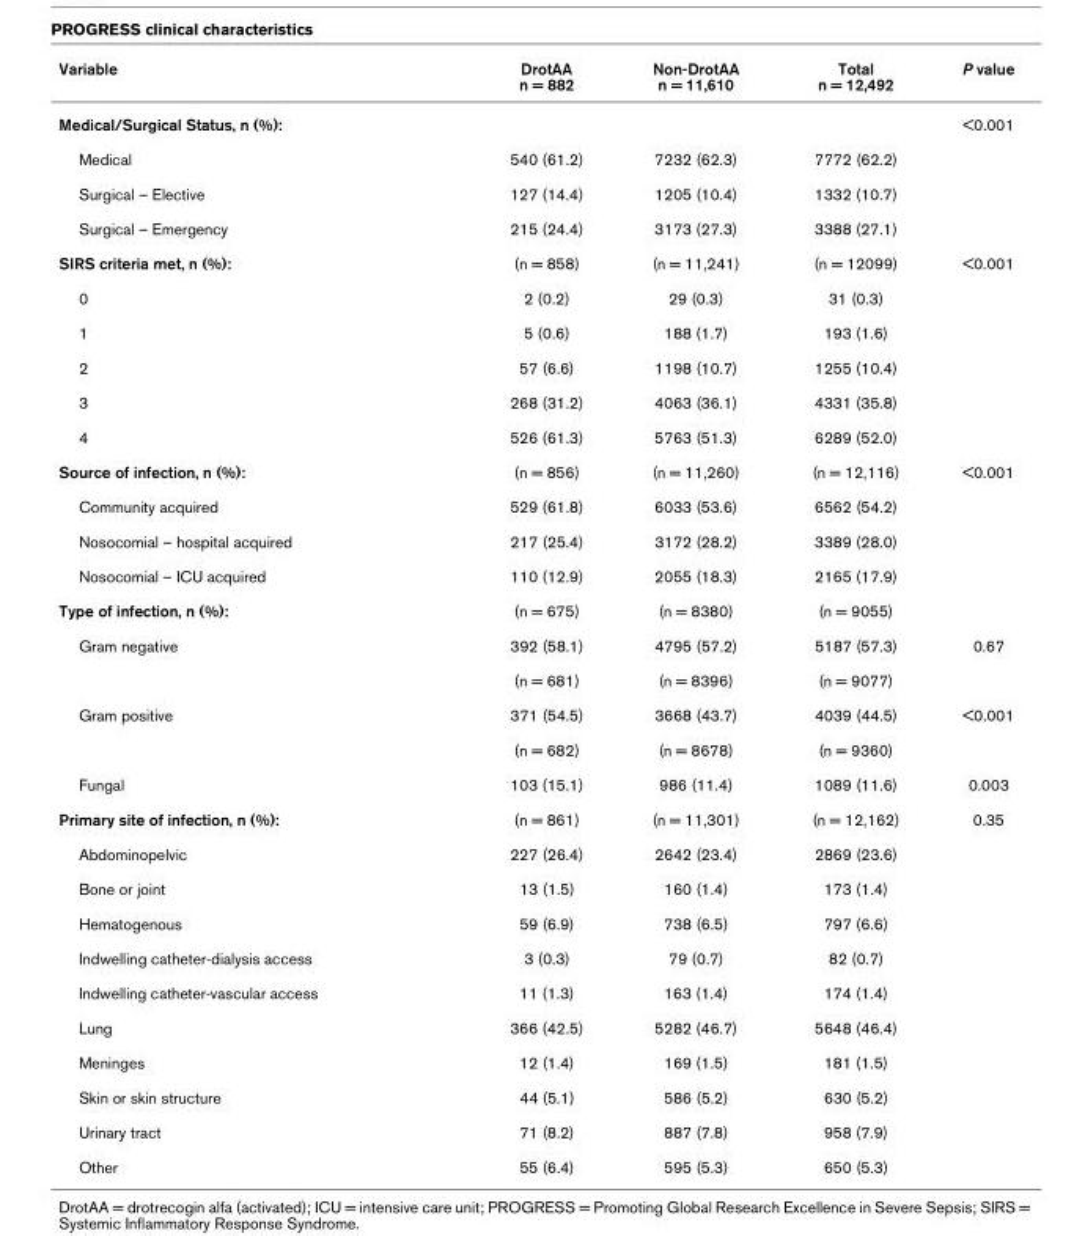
<table><thead><tr><td>Variable</td><td>DrotAA n = 882</td><td>Non-DrotAA n = 11,610</td><td>Total n = 12,492</td><td>P value</td></tr></thead><tbody><tr><td>Medical/Surgical Status, n (%):</td><td></td><td></td><td></td><td>&lt;0.001</td></tr><tr><td>Medical</td><td>540 (61.2)</td><td>7232 (62.3)</td><td>7772 (62.2)</td><td></td></tr><tr><td>Surgical – Elective</td><td>127 (14.4)</td><td>1205 (10.4)</td><td>1332 (10.7)</td><td></td></tr><tr><td>Surgical – Emergency</td><td>215 (24.4)</td><td>3173 (27.3)</td><td>3388 (27.1)</td><td></td></tr><tr><td>SIRS criteria met, n (%):</td><td>(n = 858)</td><td>(n = 11,241)</td><td>(n = 12099)</td><td>&lt;0.001</td></tr><tr><td>0</td><td>2 (0.2)</td><td>29 (0.3)</td><td>31 (0.3)</td><td></td></tr><tr><td>1</td><td>5 (0.6)</td><td>188 (1.7)</td><td>193 (1.6)</td><td></td></tr><tr><td>2</td><td>57 (6.6)</td><td>1198 (10.7)</td><td>1255 (10.4)</td><td></td></tr><tr><td>3</td><td>268 (31.2)</td><td>4063 (36.1)</td><td>4331 (35.8)</td><td></td></tr><tr><td>4</td><td>526 (61.3)</td><td>5763 (51.3)</td><td>6289 (52.0)</td><td></td></tr><tr><td>Source of infection, n (%):</td><td>(n = 856)</td><td>(n = 11,260)</td><td>(n = 12,116)</td><td>&lt;0.001</td></tr><tr><td>Community acquired</td><td>529 (61.8)</td><td>6033 (53.6)</td><td>6562 (54.2)</td><td></td></tr><tr><td>Nosocomial – hospital acquired</td><td>217 (25.4)</td><td>3172 (28.2)</td><td>3389 (28.0)</td><td></td></tr><tr><td>Nosocomial – ICU acquired</td><td>110 (12.9)</td><td>2055 (18.3)</td><td>2165 (17.9)</td><td></td></tr><tr><td>Type of infection, n (%):</td><td>(n = 675)</td><td>(n = 8380)</td><td>(n = 9055)</td><td></td></tr><tr><td rowspan="2">Gram negative</td><td>392 (58.1)</td><td>4795 (57.2)</td><td>5187 (57.3)</td><td>0.67</td></tr><tr><td>(n = 681)</td><td>(n = 8396)</td><td>(n = 9077)</td><td></td></tr><tr><td rowspan="2">Gram positive</td><td>371 (54.5)</td><td>3668 (43.7)</td><td>4039 (44.5)</td><td>&lt;0.001</td></tr><tr><td>(n = 682)</td><td>(n = 8678)</td><td>(n = 9360)</td><td></td></tr><tr><td>Fungal</td><td>103 (15.1)</td><td>986 (11.4)</td><td>1089 (11.6)</td><td>0.003</td></tr><tr><td>Primary site of infection, n (%):</td><td>(n = 861)</td><td>(n = 11,301)</td><td>(n = 12,162)</td><td>0.35</td></tr><tr><td>Abdominopelvic</td><td>227 (26.4)</td><td>2642 (23.4)</td><td>2869 (23.6)</td><td></td></tr><tr><td>Bone or joint</td><td>13 (1.5)</td><td>160 (1.4)</td><td>173 (1.4)</td><td></td></tr><tr><td>Hematogenous</td><td>59 (6.9)</td><td>738 (6.5)</td><td>797 (6.6)</td><td></td></tr><tr><td>Indwelling catheter-dialysis access</td><td>3 (0.3)</td><td>79 (0.7)</td><td>82 (0.7)</td><td></td></tr><tr><td>Indwelling catheter-vascular access</td><td>11 (1.3)</td><td>163 (1.4)</td><td>174 (1.4)</td><td></td></tr><tr><td>Lung</td><td>366 (42.5)</td><td>5282 (46.7)</td><td>5648 (46.4)</td><td></td></tr><tr><td>Meninges</td><td>12 (1.4)</td><td>169 (1.5)</td><td>181 (1.5)</td><td></td></tr><tr><td>Skin or skin structure</td><td>44 (5.1)</td><td>586 (5.2)</td><td>630 (5.2)</td><td></td></tr><tr><td>Urinary tract</td><td>71 (8.2)</td><td>887 (7.8)</td><td>958 (7.9)</td><td></td></tr><tr><td>Other</td><td>55 (6.4)</td><td>595 (5.3)</td><td>650 (5.3)</td><td></td></tr></tbody></table>